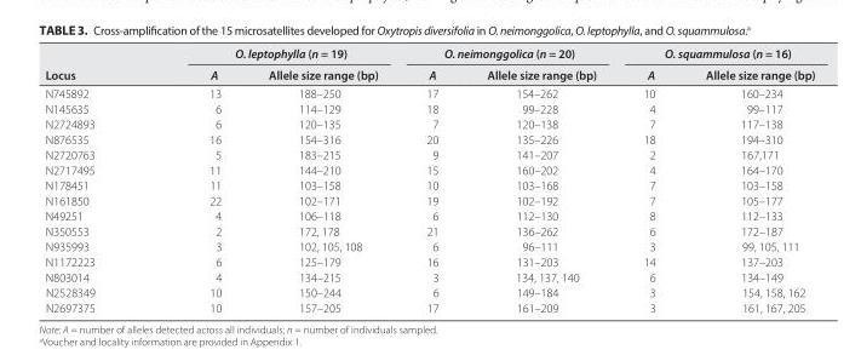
<table><thead><tr><td rowspan="2">Locus</td><td colspan="2">O. leptophylla (n = 19)</td><td colspan="2">O. neimonggolica (n = 20)</td><td colspan="2">O. squammulosa (n = 16)</td></tr><tr><td>A</td><td>Allele size range (bp)</td><td>A</td><td>Allele size range (bp)</td><td>A</td><td>Allele size range (bp)</td></tr></thead><tbody><tr><td>N745892</td><td>13</td><td>188–250</td><td>17</td><td>154–262</td><td>10</td><td>160–234</td></tr><tr><td>N145635</td><td>6</td><td>114–129</td><td>18</td><td>99–228</td><td>4</td><td>99–117</td></tr><tr><td>N2724893</td><td>6</td><td>120–135</td><td>7</td><td>120–138</td><td>7</td><td>117–138</td></tr><tr><td>N876535</td><td>16</td><td>154–316</td><td>20</td><td>135–226</td><td>18</td><td>194–310</td></tr><tr><td>N2720763</td><td>5</td><td>183–215</td><td>9</td><td>141–207</td><td>2</td><td>167,171</td></tr><tr><td>N2717495</td><td>11</td><td>144–210</td><td>15</td><td>160–202</td><td>4</td><td>164–170</td></tr><tr><td>N178451</td><td>11</td><td>103–158</td><td>10</td><td>103–168</td><td>7</td><td>103–158</td></tr><tr><td>N161850</td><td>22</td><td>102–171</td><td>19</td><td>102–192</td><td>7</td><td>105–177</td></tr><tr><td>N49251</td><td>4</td><td>106–118</td><td>6</td><td>112–130</td><td>8</td><td>112–133</td></tr><tr><td>N350553</td><td>2</td><td>172, 178</td><td>21</td><td>136–262</td><td>6</td><td>172–187</td></tr><tr><td>N935993</td><td>3</td><td>102, 105, 108</td><td>6</td><td>96–111</td><td>3</td><td>99, 105, 111</td></tr><tr><td>N1172223</td><td>6</td><td>125–179</td><td>16</td><td>131–203</td><td>14</td><td>137–203</td></tr><tr><td>N803014</td><td>4</td><td>134–215</td><td>3</td><td>134, 137, 140</td><td>6</td><td>134–149</td></tr><tr><td>N2528349</td><td>10</td><td>150–244</td><td>6</td><td>149–184</td><td>3</td><td>154, 158, 162</td></tr><tr><td>N2697375</td><td>10</td><td>157–205</td><td>17</td><td>161–209</td><td>3</td><td>161, 167, 205</td></tr></tbody></table>